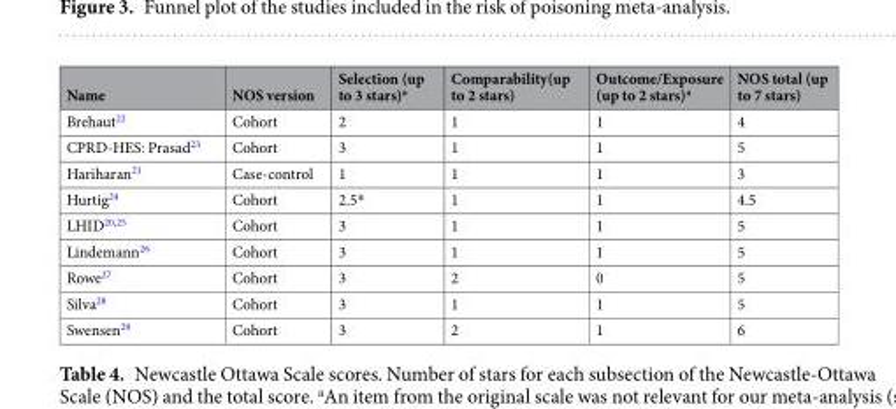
<table><thead><tr><td>Name</td><td>NOS version</td><td>Selection (up to 3 stars)<sup>a</sup></td><td>Comparability(up to 2 stars)</td><td>Outcome/Exposure (up to 2 stars)<sup>a</sup></td><td>NOS total (up to 7 stars)</td></tr></thead><tbody><tr><td>Brehaut<sup>22</sup></td><td>Cohort</td><td>2</td><td>1</td><td>1</td><td>4</td></tr><tr><td>CPRD-HES: Prasad<sup>23</sup></td><td>Cohort</td><td>3</td><td>1</td><td>1</td><td>5</td></tr><tr><td>Hariharan<sup>21</sup></td><td>Case-control</td><td>1</td><td>1</td><td>1</td><td>3</td></tr><tr><td>Hurtig<sup>24</sup></td><td>Cohort</td><td>2.5*</td><td>1</td><td>1</td><td>4.5</td></tr><tr><td>LHID<sup>20,25</sup></td><td>Cohort</td><td>3</td><td>1</td><td>1</td><td>5</td></tr><tr><td>Lindemann<sup>26</sup></td><td>Cohort</td><td>3</td><td>1</td><td>1</td><td>5</td></tr><tr><td>Rowe<sup>27</sup></td><td>Cohort</td><td>3</td><td>2</td><td>0</td><td>5</td></tr><tr><td>Silva<sup>28</sup></td><td>Cohort</td><td>3</td><td>1</td><td>1</td><td>5</td></tr><tr><td>Swensen<sup>29</sup></td><td>Cohort</td><td>3</td><td>2</td><td>1</td><td>6</td></tr></tbody></table>